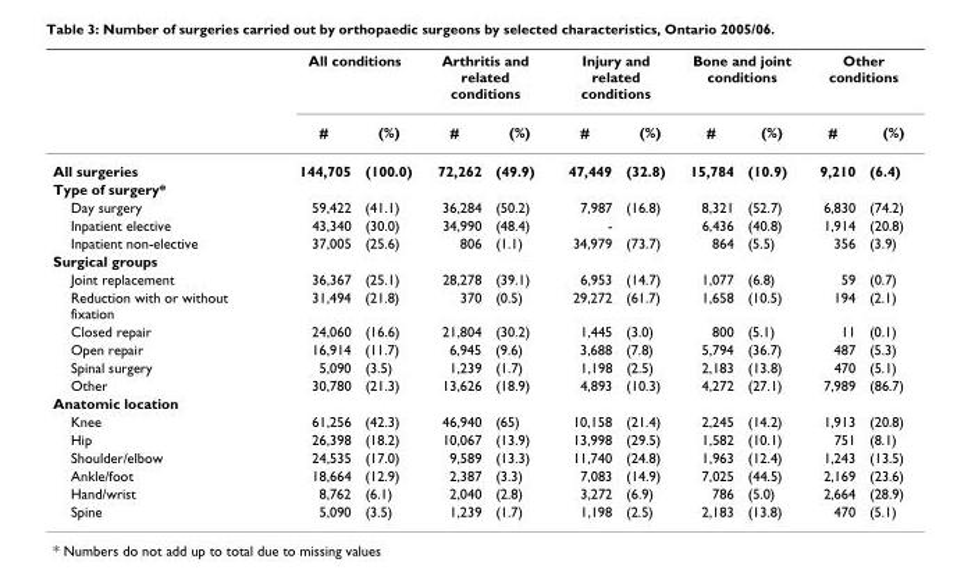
<table><thead><tr><td rowspan="2"></td><td colspan="2">All conditions</td><td colspan="2">Arthritis and related conditions</td><td colspan="2">Injury and related conditions</td><td colspan="2">Bone and joint conditions</td><td colspan="2">Other conditions</td></tr><tr><td>#</td><td>(%)</td><td>#</td><td>(%)</td><td>#</td><td>(%)</td><td>#</td><td>(%)</td><td>#</td><td>(%)</td></tr></thead><tbody><tr><td>All surgeries</td><td>144,705</td><td>(100.0)</td><td>72,262</td><td>(49.9)</td><td>47,449</td><td>(32.8)</td><td>15,784</td><td>(10.9)</td><td>9,210</td><td>(6.4)</td></tr><tr><td colspan="11">Type of surgery*</td></tr><tr><td>Day surgery</td><td>59,422</td><td>(41.1)</td><td>36,284</td><td>(50.2)</td><td>7,987</td><td>(16.8)</td><td>8,321</td><td>(52.7)</td><td>6,830</td><td>(74.2)</td></tr><tr><td>Inpatient elective</td><td>43,340</td><td>(30.0)</td><td>34,990</td><td>(48.4)</td><td>-</td><td></td><td>6,436</td><td>(40.8)</td><td>1,914</td><td>(20.8)</td></tr><tr><td>Inpatient non-elective</td><td>37,005</td><td>(25.6)</td><td>806</td><td>(1.1)</td><td>34,979</td><td>(73.7)</td><td>864</td><td>(5.5)</td><td>356</td><td>(3.9)</td></tr><tr><td colspan="11">Surgical groups</td></tr><tr><td>Joint replacement</td><td>36,367</td><td>(25.1)</td><td>28,278</td><td>(39.1)</td><td>6,953</td><td>(14.7)</td><td>1,077</td><td>(6.8)</td><td>59</td><td>(0.7)</td></tr><tr><td>Reduction with or without fixation</td><td>31,494</td><td>(21.8)</td><td>370</td><td>(0.5)</td><td>29,272</td><td>(61.7)</td><td>1,658</td><td>(10.5)</td><td>194</td><td>(2.1)</td></tr><tr><td>Closed repair</td><td>24,060</td><td>(16.6)</td><td>21,804</td><td>(30.2)</td><td>1,445</td><td>(3.0)</td><td>800</td><td>(5.1)</td><td>11</td><td>(0.1)</td></tr><tr><td>Open repair</td><td>16,914</td><td>(11.7)</td><td>6,945</td><td>(9.6)</td><td>3,688</td><td>(7.8)</td><td>5,794</td><td>(36.7)</td><td>487</td><td>(5.3)</td></tr><tr><td>Spinal surgery</td><td>5,090</td><td>(3.5)</td><td>1,239</td><td>(1.7)</td><td>1,198</td><td>(2.5)</td><td>2,183</td><td>(13.8)</td><td>470</td><td>(5.1)</td></tr><tr><td>Other</td><td>30,780</td><td>(21.3)</td><td>13,626</td><td>(18.9)</td><td>4,893</td><td>(10.3)</td><td>4,272</td><td>(27.1)</td><td>7,989</td><td>(86.7)</td></tr><tr><td colspan="11">Anatomic location</td></tr><tr><td>Knee</td><td>61,256</td><td>(42.3)</td><td>46,940</td><td>(65)</td><td>10,158</td><td>(21.4)</td><td>2,245</td><td>(14.2)</td><td>1,913</td><td>(20.8)</td></tr><tr><td>Hip</td><td>26,398</td><td>(18.2)</td><td>10,067</td><td>(13.9)</td><td>13,998</td><td>(29.5)</td><td>1,582</td><td>(10.1)</td><td>751</td><td>(8.1)</td></tr><tr><td>Shoulder/elbow</td><td>24,535</td><td>(17.0)</td><td>9,589</td><td>(13.3)</td><td>11,740</td><td>(24.8)</td><td>1,963</td><td>(12.4)</td><td>1,243</td><td>(13.5)</td></tr><tr><td>Ankle/foot</td><td>18,664</td><td>(12.9)</td><td>2,387</td><td>(3.3)</td><td>7,083</td><td>(14.9)</td><td>7,025</td><td>(44.5)</td><td>2,169</td><td>(23.6)</td></tr><tr><td>Hand/wrist</td><td>8,762</td><td>(6.1)</td><td>2,040</td><td>(2.8)</td><td>3,272</td><td>(6.9)</td><td>786</td><td>(5.0)</td><td>2,664</td><td>(28.9)</td></tr><tr><td>Spine</td><td>5,090</td><td>(3.5)</td><td>1,239</td><td>(1.7)</td><td>1,198</td><td>(2.5)</td><td>2,183</td><td>(13.8)</td><td>470</td><td>(5.1)</td></tr></tbody></table>